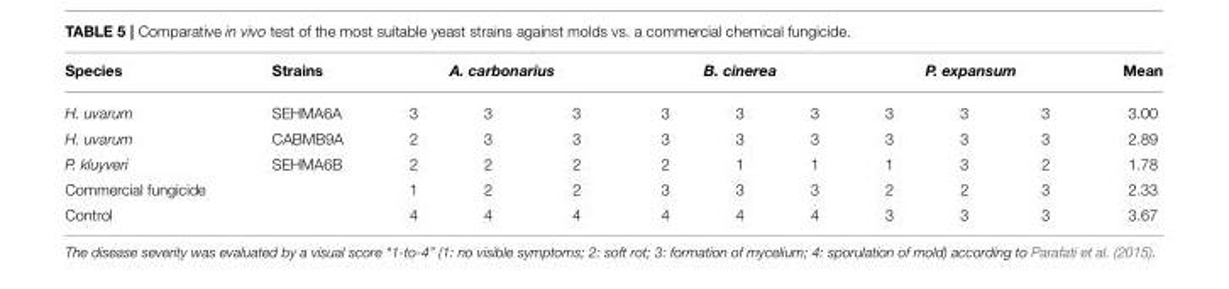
<table><thead><tr><td rowspan="2">Species H. uvarum</td><td rowspan="2">Strains SEHMA6A</td><td colspan="3">A. carbonarius</td><td colspan="3">B. cinerea</td><td colspan="3">P. expansum</td><td rowspan="2">Mean 3.00</td></tr><tr><td>3</td><td>3</td><td>3</td><td>3</td><td>3</td><td>3</td><td>3</td><td>3</td><td>3</td></tr></thead><tbody><tr><td>H. uvarum</td><td>CABMB9A</td><td>2</td><td>3</td><td>3</td><td>3</td><td>3</td><td>3</td><td>3</td><td>3</td><td>3</td><td>2.89</td></tr><tr><td>P. kluyveri</td><td>SEHMA6B</td><td>2</td><td>2</td><td>2</td><td>2</td><td>1</td><td>1</td><td>1</td><td>3</td><td>2</td><td>1.78</td></tr><tr><td>Commercial fungicide</td><td></td><td>1</td><td>2</td><td>2</td><td>3</td><td>3</td><td>3</td><td>2</td><td>2</td><td>3</td><td>2.33</td></tr><tr><td>Control</td><td></td><td>4</td><td>4</td><td>4</td><td>4</td><td>4</td><td>4</td><td>3</td><td>3</td><td>3</td><td>3.67</td></tr></tbody></table>